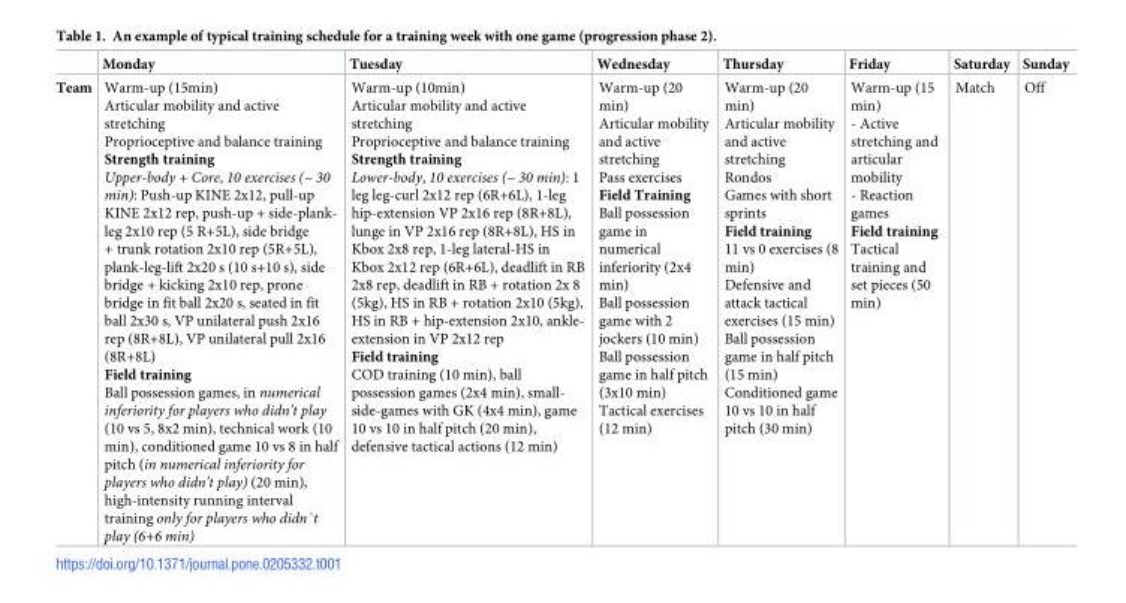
<table><thead><tr><td></td><td>Monday</td><td>Tuesday</td><td>Wednesday</td><td>Thursday</td><td>Friday</td><td>Saturday</td><td>Sunday</td></tr></thead><tbody><tr><td>Team</td><td>Warm-up (15min) Articular mobility and active stretching Proprioceptive and balance training Strength training Upper-body + Core, 10 exercises (~ 30 min): Push-up KINE 2x12, pull-up KINE 2x12 rep, push-up + side-plank- leg 2x10 rep (5 R+5L), side bridge + trunk rotation 2x10 rep (5R+5L), plank-leg-lift 2x20 s (10 s+10 s), side bridge + kicking 2x10 rep, prone bridge in fit ball 2x20 s, seated in fit ball 2x30 s, VP unilateral push 2x16 rep (8R+8L), VP unilateral pull 2x16 (8R+8L) Field training Ball possession games, in numerical inferiority for players who didn’t play (10 vs 5, 8x2 min), technical work (10 min), conditioned game 10 vs 8 in half pitch (in numerical inferiority for players who didn’t play) (20 min), high-intensity running interval training only for players who didn`t play (6+6 min)</td><td>Warm-up (10min) Articular mobility and active stretching Proprioceptive and balance training Strength training Lower-body, 10 exercises (~ 30 min): 1 leg leg-curl 2x12 rep (6R+6L), 1-leg hip-extension VP 2x16 rep (8R+8L), lunge in VP 2x16 rep (8R+8L), HS in Kbox 2x8 rep, 1-leg lateral-HS in Kbox 2x12 rep (6R+6L), deadlift in RB 2x8 rep, deadlift in RB + rotation 2x 8 (5kg), HS in RB + rotation 2x10 (5kg), HS in RB + hip-extension 2x10, ankle- extension in VP 2x12 rep Field training COD training (10 min), ball possession games (2x4 min), small- side-games with GK (4x4 min), game 10 vs 10 in half pitch (20 min), defensive tactical actions (12 min)</td><td>Warm-up (20 min) Articular mobility and active stretching Pass exercises Field Training Ball possession game in numerical inferiority (2x4 min) Ball possession game with 2 jockers (10 min) Ball possession game in half pitch (3x10 min) Tactical exercises (12 min)</td><td>Warm-up (20 min) Articular mobility and active stretching Rondos Games with short sprints Field training 11 vs 0 exercises (8 min) Defensive and attack tactical exercises (15 min) Ball possession game in half pitch (15 min) Conditioned game 10 vs 10 in half pitch (30 min)</td><td>Warm-up (15 min) - Active stretching and articular mobility - Reaction games Field training Tactical training and set pieces (50 min)</td><td>Match</td><td>Off</td></tr></tbody></table>